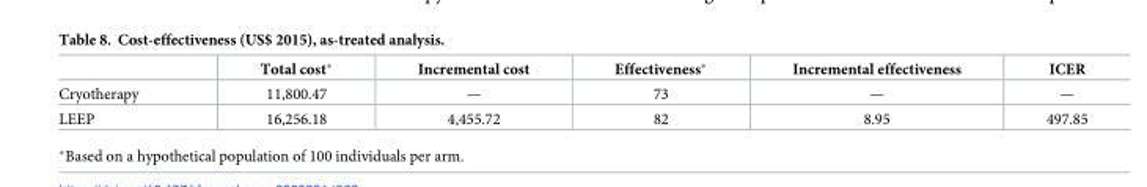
<table><thead><tr><td></td><td>Total cost*</td><td>Incremental cost</td><td>Effectiveness*</td><td>Incremental effectiveness</td><td>ICER</td></tr></thead><tbody><tr><td>Cryotherapy</td><td>11,800.47</td><td>—</td><td>73</td><td>—</td><td>—</td></tr><tr><td>LEEP</td><td>16,256.18</td><td>4,455.72</td><td>82</td><td>8.95</td><td>497.85</td></tr></tbody></table>